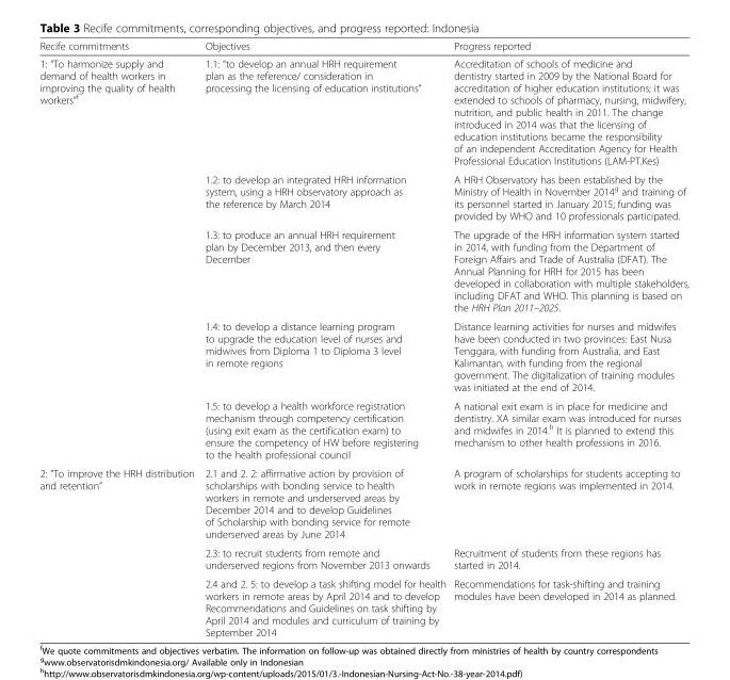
<table><thead><tr><td>Recife commitments</td><td>Objectives</td><td>Progress reported</td></tr></thead><tbody><tr><td rowspan="5">1: “To harmonize supply and demand of health workers in improving the quality of health workers”<sup>f</sup></td><td>1.1: “to develop an annual HRH requirement plan as the reference/ consideration in processing the licensing of education institutions”</td><td>Accreditation of schools of medicine and dentistry started in 2009 by the National Board for accreditation of higher education institutions; it was extended to schools of pharmacy, nursing, midwifery, nutrition, and public health in 2011. The change introduced in 2014 was that the licensing of education institutions became the responsibility of an independent Accreditation Agency for Health Professional Education Institutions (LAM-PT.Kes)</td></tr><tr><td>1.2: to develop an integrated HRH information system, using a HRH observatory approach as the reference by March 2014</td><td>A HRH Observatory has been established by the Ministry of Health in November 2014<sup>g</sup> and training of its personnel started in January 2015; funding was provided by WHO and 10 professionals participated.</td></tr><tr><td>1.3: to produce an annual HRH requirement plan by December 2013, and then every December</td><td>The upgrade of the HRH information system started in 2014, with funding from the Department of Foreign Affairs and Trade of Australia (DFAT). The Annual Planning for HRH for 2015 has been developed in collaboration with multiple stakeholders, including DFAT and WHO. This planning is based on the HRH Plan 2011–2025.</td></tr><tr><td>1.4: to develop a distance learning program to upgrade the education level of nurses and midwives from Diploma 1 to Diploma 3 level in remote regions</td><td>Distance learning activities for nurses and midwifes have been conducted in two provinces: East Nusa Tenggara, with funding from Australia, and East Kalimantan, with funding from the regional government. The digitalization of training modules was initiated at the end of 2014.</td></tr><tr><td>1.5: to develop a health workforce registration mechanism through competency certification (using exit exam as the certification exam) to ensure the competency of HW before registering to the health professional council</td><td>A national exit exam is in place for medicine and dentistry. XA similar exam was introduced for nurses and midwifes in 2014.<sup>h</sup> It is planned to extend this mechanism to other health professions in 2016.</td></tr><tr><td rowspan="3">2: “To improve the HRH distribution and retention”</td><td>2.1 and 2. 2: affirmative action by provision of scholarships with bonding service to health workers in remote and underserved areas by December 2014 and to develop Guidelines of Scholarship with bonding service for remote underserved areas by June 2014</td><td>A program of scholarships for students accepting to work in remote regions was implemented in 2014.</td></tr><tr><td>2.3: to recruit students from remote and underserved regions from November 2013 onwards</td><td>Recruitment of students from these regions has started in 2014.</td></tr><tr><td>2.4 and 2. 5: to develop a task shifting model for health workers in remote areas by April 2014 and to develop Recommendations and Guidelines on task shifting by April 2014 and modules and curriculum of training by September 2014</td><td>Recommendations for task-shifting and training modules have been developed in 2014 as planned.</td></tr></tbody></table>